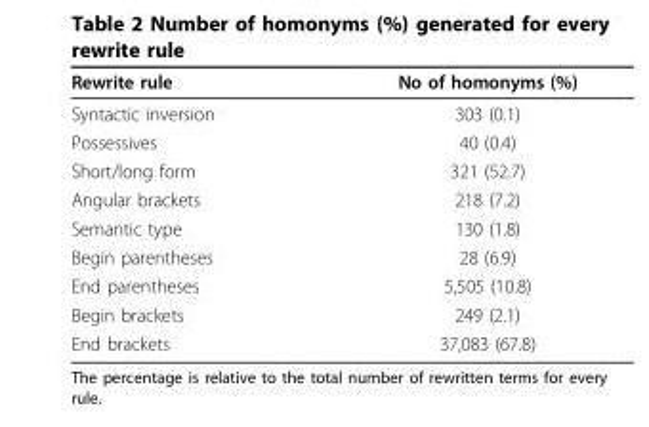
<table><thead><tr><td>Rewrite rule</td><td>No of homonyms (%)</td></tr></thead><tbody><tr><td>Syntactic inversion</td><td>303 (0.1)</td></tr><tr><td>Possessives</td><td>40 (0.4)</td></tr><tr><td>Short/long form</td><td>321 (52.7)</td></tr><tr><td>Angular brackets</td><td>218 (7.2)</td></tr><tr><td>Semantic type</td><td>130 (1.8)</td></tr><tr><td>Begin parentheses</td><td>28 (6.9)</td></tr><tr><td>End parentheses</td><td>5,505 (10.8)</td></tr><tr><td>Begin brackets</td><td>249 (2.1)</td></tr><tr><td>End brackets</td><td>37,083 (67.8)</td></tr></tbody></table>